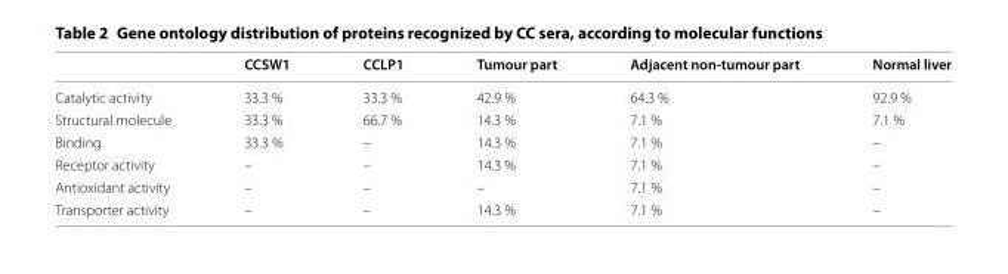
<table><thead><tr><td></td><td>CCSW1</td><td>CCLP1</td><td>Tumour part</td><td>Adjacent non‑tumour part</td><td>Normal liver</td></tr></thead><tbody><tr><td>Catalytic activity</td><td>33.3 %</td><td>33.3 %</td><td>42.9 %</td><td>64.3 %</td><td>92.9 %</td></tr><tr><td>Structural molecule</td><td>33.3 %</td><td>66.7 %</td><td>14.3 %</td><td>7.1 %</td><td>7.1 %</td></tr><tr><td>Binding</td><td>33.3 %</td><td>–</td><td>14.3 %</td><td>7.1 %</td><td>–</td></tr><tr><td>Receptor activity</td><td>–</td><td>–</td><td>14.3 %</td><td>7.1 %</td><td>–</td></tr><tr><td>Antioxidant activity</td><td>–</td><td>–</td><td>–</td><td>7.1 %</td><td>–</td></tr><tr><td>Transporter activity</td><td>–</td><td>–</td><td>14.3 %</td><td>7.1 %</td><td>–</td></tr></tbody></table>